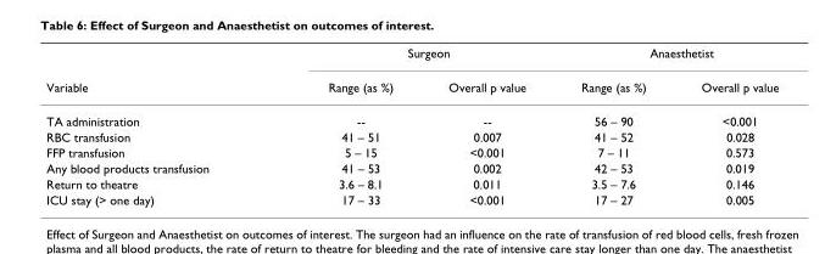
<table><thead><tr><td rowspan="2">Variable</td><td colspan="2">Surgeon</td><td colspan="2">Anaesthetist</td></tr><tr><td>Range (as %)</td><td>Overall p value</td><td>Range (as %)</td><td>Overall p value</td></tr></thead><tbody><tr><td>TA administration</td><td>--</td><td>--</td><td>56 – 90</td><td>&lt;0.001</td></tr><tr><td>RBC transfusion</td><td>41 – 51</td><td>0.007</td><td>41 – 52</td><td>0.028</td></tr><tr><td>FFP transfusion</td><td>5 – 15</td><td>&lt;0.001</td><td>7 – 11</td><td>0.573</td></tr><tr><td>Any blood products transfusion</td><td>41 – 53</td><td>0.002</td><td>42 – 53</td><td>0.019</td></tr><tr><td>Return to theatre</td><td>3.6 – 8.1</td><td>0.011</td><td>3.5 – 7.6</td><td>0.146</td></tr><tr><td>ICU stay (&gt; one day)</td><td>17 – 33</td><td>&lt;0.001</td><td>17 – 27</td><td>0.005</td></tr></tbody></table>